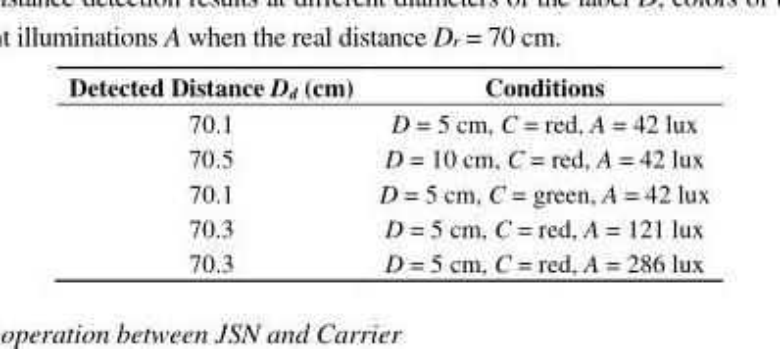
<table><thead><tr><td>Detected Distance D<sub>d</sub> (cm)</td><td>Conditions</td></tr></thead><tbody><tr><td>70.1</td><td>D = 5 cm, C = red, A = 42 lux</td></tr><tr><td>70.5</td><td>D = 10 cm, C = red, A = 42 lux</td></tr><tr><td>70.1</td><td>D = 5 cm, C = green, A = 42 lux</td></tr><tr><td>70.3</td><td>D = 5 cm, C = red, A = 121 lux</td></tr><tr><td>70.3</td><td>D = 5 cm, C = red, A = 286 lux</td></tr></tbody></table>